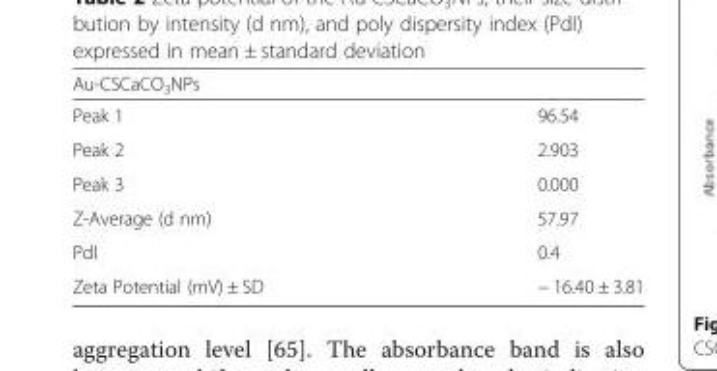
<table><thead><tr><td colspan="2">Au-CSCaCO<sub>3</sub>NPs</td></tr><tr><td>Peak 1</td><td>96.54</td></tr></thead><tbody><tr><td>Peak 2</td><td>2.903</td></tr><tr><td>Peak 3</td><td>0.000</td></tr><tr><td>Z-Average (d nm)</td><td>57.97</td></tr><tr><td>PdI</td><td>0.4</td></tr><tr><td>Zeta Potential (mV) ± SD</td><td>− 16.40 ± 3.81</td></tr></tbody></table>